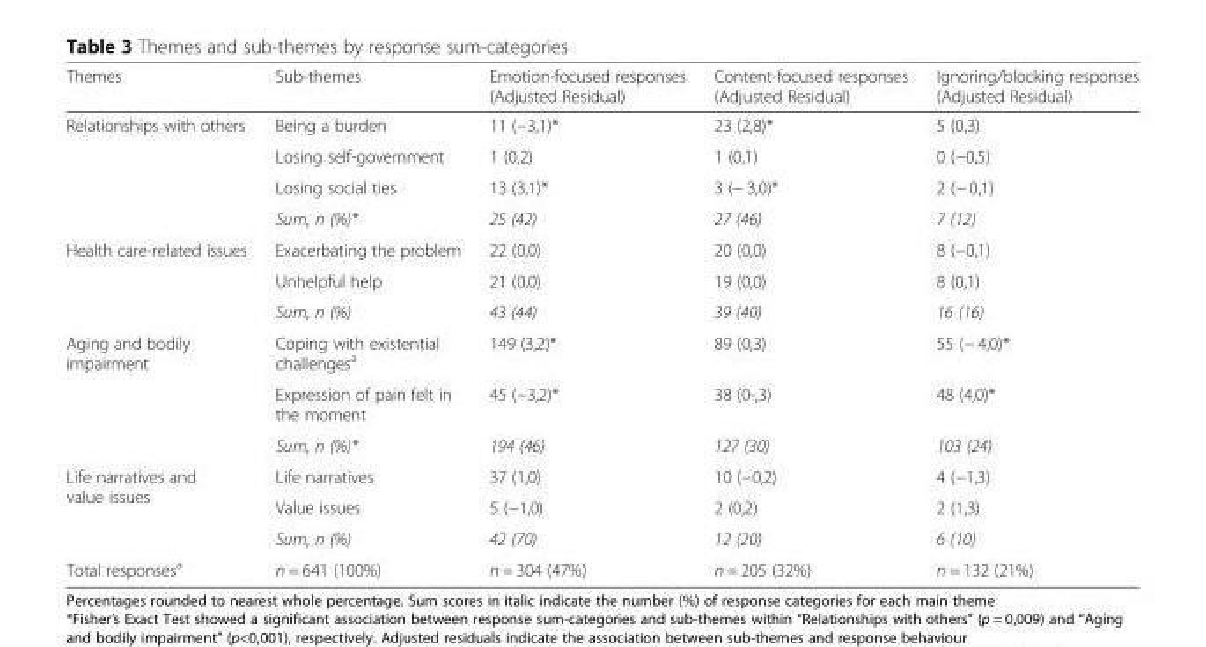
<table><thead><tr><td>Themes</td><td>Sub-themes</td><td>Emotion-focused responses (Adjusted Residual)</td><td>Content-focused responses (Adjusted Residual)</td><td>Ignoring/blocking responses (Adjusted Residual)</td></tr></thead><tbody><tr><td rowspan="4">Relationships with others</td><td>Being a burden</td><td>11 (−3,1)*</td><td>23 (2,8)*</td><td>5 (0,3)</td></tr><tr><td>Losing self-government</td><td>1 (0,2)</td><td>1 (0,1)</td><td>0 (−0,5)</td></tr><tr><td>Losing social ties</td><td>13 (3,1)*</td><td>3 (− 3,0)*</td><td>2 (− 0,1)</td></tr><tr><td>Sum, n (%)*</td><td>25 (42)</td><td>27 (46)</td><td>7 (12)</td></tr><tr><td rowspan="3">Health care-related issues</td><td>Exacerbating the problem</td><td>22 (0,0)</td><td>20 (0,0)</td><td>8 (−0,1)</td></tr><tr><td>Unhelpful help</td><td>21 (0,0)</td><td>19 (0,0)</td><td>8 (0,1)</td></tr><tr><td>Sum, n (%)</td><td>43 (44)</td><td>39 (40)</td><td>16 (16)</td></tr><tr><td rowspan="3">Aging and bodily impairment</td><td>Coping with existential challenges<sup>a</sup></td><td>149 (3,2)*</td><td>89 (0,3)</td><td>55 (− 4,0)*</td></tr><tr><td>Expression of pain felt in the moment</td><td>45 (−3,2)*</td><td>38 (0-,3)</td><td>48 (4,0)*</td></tr><tr><td>Sum, n (%)*</td><td>194 (46)</td><td>127 (30)</td><td>103 (24)</td></tr><tr><td rowspan="3">Life narratives and value issues</td><td>Life narratives</td><td>37 (1,0)</td><td>10 (−0,2)</td><td>4 (−1,3)</td></tr><tr><td>Value issues</td><td>5 (−1,0)</td><td>2 (0,2)</td><td>2 (1,3)</td></tr><tr><td>Sum, n (%)</td><td>42 (70)</td><td>12 (20)</td><td>6 (10)</td></tr><tr><td>Total responses<sup>a</sup></td><td>n = 641 (100%)</td><td>n = 304 (47%)</td><td>n = 205 (32%)</td><td>n = 132 (21%)</td></tr></tbody></table>